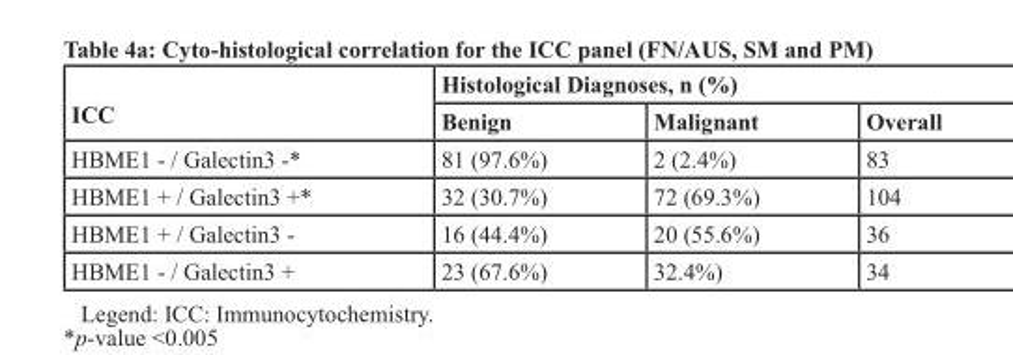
<table><thead><tr><td rowspan="2">ICC</td><td colspan="3">Histological Diagnoses, n (%)</td></tr><tr><td>Benign</td><td>Malignant</td><td>Overall</td></tr></thead><tbody><tr><td>HBME1 - / Galectin3 -*</td><td>81 (97.6%)</td><td>2 (2.4%)</td><td>83</td></tr><tr><td>HBME1 + / Galectin3 +*</td><td>32 (30.7%)</td><td>72 (69.3%)</td><td>104</td></tr><tr><td>HBME1 + / Galectin3 -</td><td>16 (44.4%)</td><td>20 (55.6%)</td><td>36</td></tr><tr><td>HBME1 - / Galectin3 +</td><td>23 (67.6%)</td><td>32.4%)</td><td>34</td></tr></tbody></table>